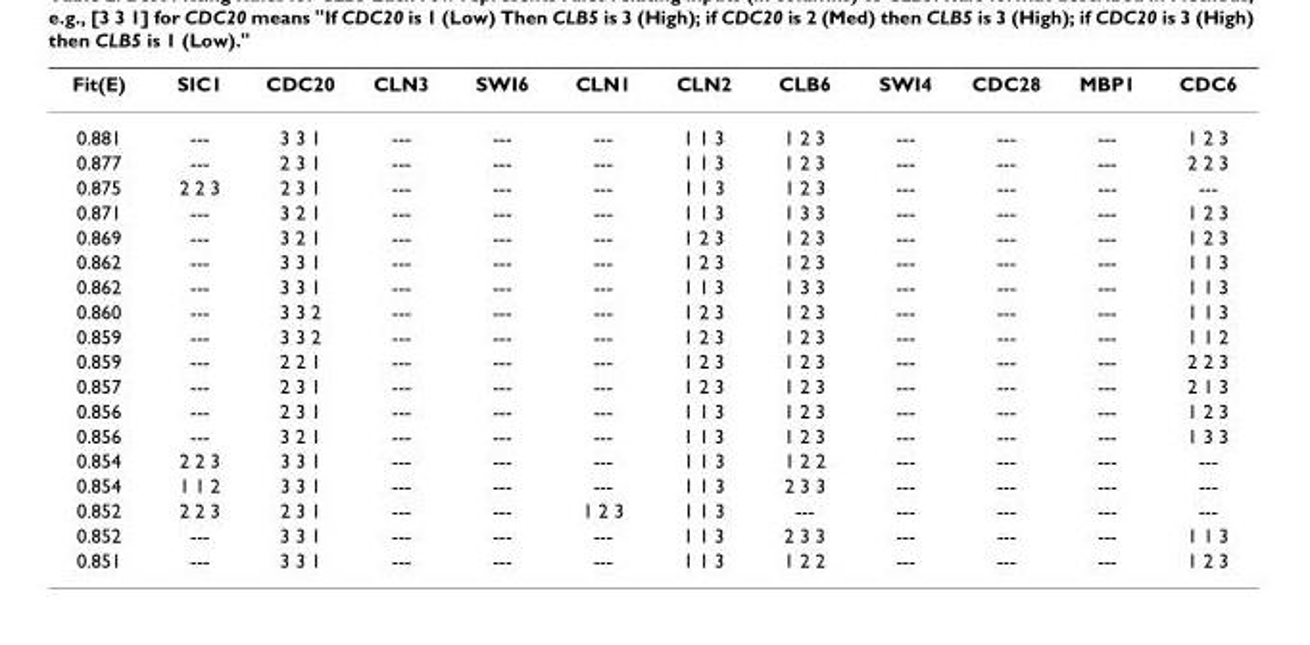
<table><thead><tr><td>Fit(E)</td><td>SIC1</td><td>CDC20</td><td>CLN3</td><td>SWI6</td><td>CLN1</td><td>CLN2</td><td>CLB6</td><td>SWI4</td><td>CDC28</td><td>MBP1</td><td>CDC6</td></tr></thead><tbody><tr><td>0.881</td><td>---</td><td>3 3 1</td><td>---</td><td>---</td><td>---</td><td>1 1 3</td><td>1 2 3</td><td>---</td><td>---</td><td>---</td><td>1 2 3</td></tr><tr><td>0.877</td><td>---</td><td>2 3 1</td><td>---</td><td>---</td><td>---</td><td>1 1 3</td><td>1 2 3</td><td>---</td><td>---</td><td>---</td><td>2 2 3</td></tr><tr><td>0.875</td><td>2 2 3</td><td>2 3 1</td><td>---</td><td>---</td><td>---</td><td>1 1 3</td><td>1 2 3</td><td>---</td><td>---</td><td>---</td><td>---</td></tr><tr><td>0.871</td><td>---</td><td>3 2 1</td><td>---</td><td>---</td><td>---</td><td>1 1 3</td><td>1 3 3</td><td>---</td><td>---</td><td>---</td><td>1 2 3</td></tr><tr><td>0.869</td><td>---</td><td>3 2 1</td><td>---</td><td>---</td><td>---</td><td>1 2 3</td><td>1 2 3</td><td>---</td><td>---</td><td>---</td><td>1 2 3</td></tr><tr><td>0.862</td><td>---</td><td>3 3 1</td><td>---</td><td>---</td><td>---</td><td>1 2 3</td><td>1 2 3</td><td>---</td><td>---</td><td>---</td><td>1 1 3</td></tr><tr><td>0.862</td><td>---</td><td>3 3 1</td><td>---</td><td>---</td><td>---</td><td>1 1 3</td><td>1 3 3</td><td>---</td><td>---</td><td>---</td><td>1 1 3</td></tr><tr><td>0.860</td><td>---</td><td>3 3 2</td><td>---</td><td>---</td><td>---</td><td>1 2 3</td><td>1 2 3</td><td>---</td><td>---</td><td>---</td><td>1 1 3</td></tr><tr><td>0.859</td><td>---</td><td>3 3 2</td><td>---</td><td>---</td><td>---</td><td>1 2 3</td><td>1 2 3</td><td>---</td><td>---</td><td>---</td><td>1 1 2</td></tr><tr><td>0.859</td><td>---</td><td>2 2 1</td><td>---</td><td>---</td><td>---</td><td>1 2 3</td><td>1 2 3</td><td>---</td><td>---</td><td>---</td><td>2 2 3</td></tr><tr><td>0.857</td><td>---</td><td>2 3 1</td><td>---</td><td>---</td><td>---</td><td>1 2 3</td><td>1 2 3</td><td>---</td><td>---</td><td>---</td><td>2 1 3</td></tr><tr><td>0.856</td><td>---</td><td>2 3 1</td><td>---</td><td>---</td><td>---</td><td>1 1 3</td><td>1 2 3</td><td>---</td><td>---</td><td>---</td><td>1 2 3</td></tr><tr><td>0.856</td><td>---</td><td>3 2 1</td><td>---</td><td>---</td><td>---</td><td>1 1 3</td><td>1 2 3</td><td>---</td><td>---</td><td>---</td><td>1 3 3</td></tr><tr><td>0.854</td><td>2 2 3</td><td>3 3 1</td><td>---</td><td>---</td><td>---</td><td>1 1 3</td><td>1 2 2</td><td>---</td><td>---</td><td>---</td><td>---</td></tr><tr><td>0.854</td><td>1 1 2</td><td>3 3 1</td><td>---</td><td>---</td><td>---</td><td>1 1 3</td><td>2 3 3</td><td>---</td><td>---</td><td>---</td><td>---</td></tr><tr><td>0.852</td><td>2 2 3</td><td>2 3 1</td><td>---</td><td>---</td><td>1 2 3</td><td>1 1 3</td><td>---</td><td>---</td><td>---</td><td>---</td><td>---</td></tr><tr><td>0.852</td><td>---</td><td>3 3 1</td><td>---</td><td>---</td><td>---</td><td>1 1 3</td><td>2 3 3</td><td>---</td><td>---</td><td>---</td><td>1 1 3</td></tr><tr><td>0.851</td><td>---</td><td>3 3 1</td><td>---</td><td>---</td><td>---</td><td>1 1 3</td><td>1 2 2</td><td>---</td><td>---</td><td>---</td><td>1 2 3</td></tr></tbody></table>